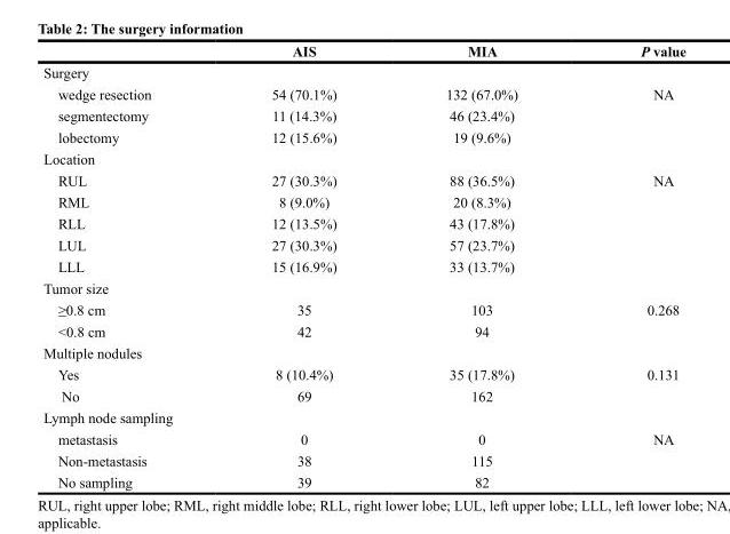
<table><thead><tr><td></td><td>AIS</td><td>MIA</td><td>P value</td></tr></thead><tbody><tr><td colspan="4">Surgery</td></tr><tr><td>wedge resection</td><td>54 (70.1%)</td><td>132 (67.0%)</td><td>NA</td></tr><tr><td>segmentectomy</td><td>11 (14.3%)</td><td>46 (23.4%)</td><td></td></tr><tr><td>lobectomy</td><td>12 (15.6%)</td><td>19 (9.6%)</td><td></td></tr><tr><td colspan="4">Location</td></tr><tr><td>RUL</td><td>27 (30.3%)</td><td>88 (36.5%)</td><td>NA</td></tr><tr><td>RML</td><td>8 (9.0%)</td><td>20 (8.3%)</td><td></td></tr><tr><td>RLL</td><td>12 (13.5%)</td><td>43 (17.8%)</td><td></td></tr><tr><td>LUL</td><td>27 (30.3%)</td><td>57 (23.7%)</td><td></td></tr><tr><td>LLL</td><td>15 (16.9%)</td><td>33 (13.7%)</td><td></td></tr><tr><td colspan="4">Tumor size</td></tr><tr><td>≥0.8 cm</td><td>35</td><td>103</td><td>0.268</td></tr><tr><td>&lt;0.8 cm</td><td>42</td><td>94</td><td></td></tr><tr><td colspan="4">Multiple nodules</td></tr><tr><td>Yes</td><td>8 (10.4%)</td><td>35 (17.8%)</td><td>0.131</td></tr><tr><td>No</td><td>69</td><td>162</td><td></td></tr><tr><td colspan="4">Lymph node sampling</td></tr><tr><td>metastasis</td><td>0</td><td>0</td><td>NA</td></tr><tr><td>Non-metastasis</td><td>38</td><td>115</td><td></td></tr><tr><td>No sampling</td><td>39</td><td>82</td><td></td></tr></tbody></table>